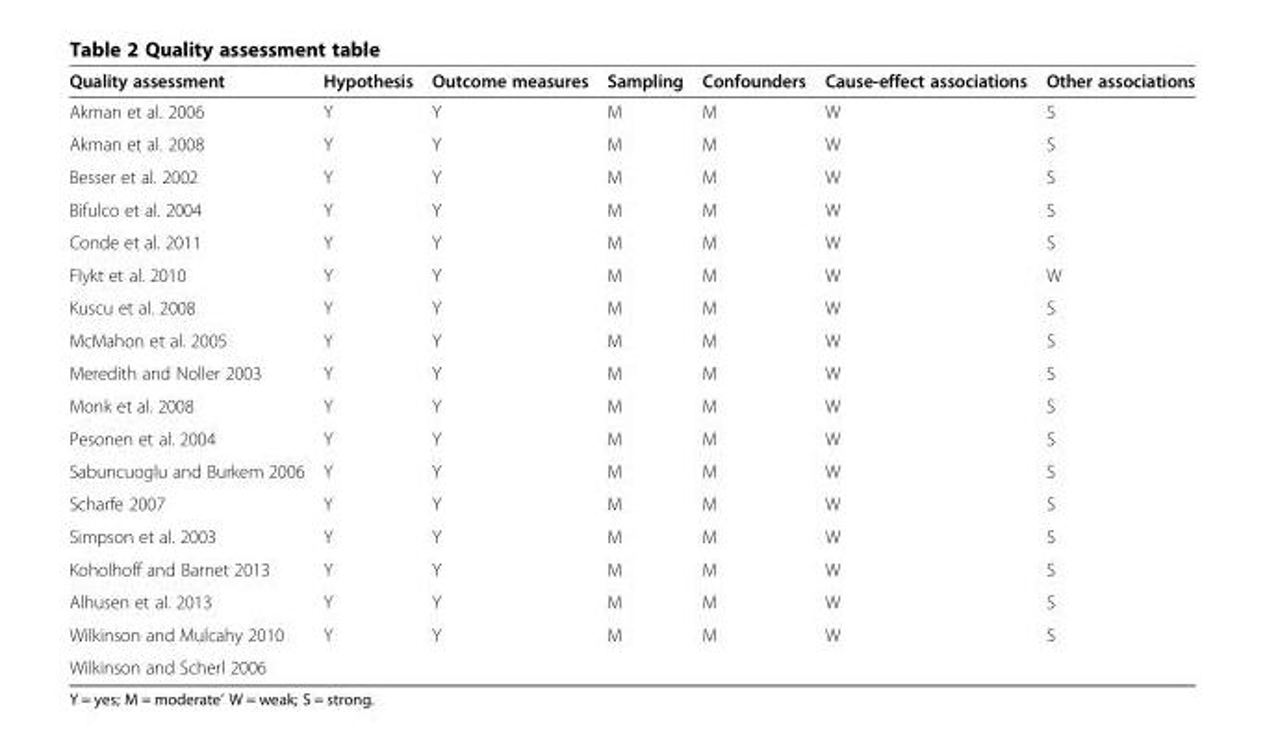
<table><thead><tr><td>Quality assessment</td><td>Hypothesis</td><td>Outcome measures</td><td>Sampling</td><td>Confounders</td><td>Cause-effect associations</td><td>Other associations</td></tr></thead><tbody><tr><td>Akman et al. 2006</td><td>Y</td><td>Y</td><td>M</td><td>M</td><td>W</td><td>S</td></tr><tr><td>Akman et al. 2008</td><td>Y</td><td>Y</td><td>M</td><td>M</td><td>W</td><td>S</td></tr><tr><td>Besser et al. 2002</td><td>Y</td><td>Y</td><td>M</td><td>M</td><td>W</td><td>S</td></tr><tr><td>Bifulco et al. 2004</td><td>Y</td><td>Y</td><td>M</td><td>M</td><td>W</td><td>S</td></tr><tr><td>Conde et al. 2011</td><td>Y</td><td>Y</td><td>M</td><td>M</td><td>W</td><td>S</td></tr><tr><td>Flykt et al. 2010</td><td>Y</td><td>Y</td><td>M</td><td>M</td><td>W</td><td>W</td></tr><tr><td>Kuscu et al. 2008</td><td>Y</td><td>Y</td><td>M</td><td>M</td><td>W</td><td>S</td></tr><tr><td>McMahon et al. 2005</td><td>Y</td><td>Y</td><td>M</td><td>M</td><td>W</td><td>S</td></tr><tr><td>Meredith and Noller 2003</td><td>Y</td><td>Y</td><td>M</td><td>M</td><td>W</td><td>S</td></tr><tr><td>Monk et al. 2008</td><td>Y</td><td>Y</td><td>M</td><td>M</td><td>W</td><td>S</td></tr><tr><td>Pesonen et al. 2004</td><td>Y</td><td>Y</td><td>M</td><td>M</td><td>W</td><td>S</td></tr><tr><td>Sabuncuoglu and Burkem 2006</td><td>Y</td><td>Y</td><td>M</td><td>M</td><td>W</td><td>S</td></tr><tr><td>Scharfe 2007</td><td>Y</td><td>Y</td><td>M</td><td>M</td><td>W</td><td>S</td></tr><tr><td>Simpson et al. 2003</td><td>Y</td><td>Y</td><td>M</td><td>M</td><td>W</td><td>S</td></tr><tr><td>Koholhoff and Barnet 2013</td><td>Y</td><td>Y</td><td>M</td><td>M</td><td>W</td><td>S</td></tr><tr><td>Alhusen et al. 2013</td><td>Y</td><td>Y</td><td>M</td><td>M</td><td>W</td><td>S</td></tr><tr><td>Wilkinson and Mulcahy 2010</td><td>Y</td><td>Y</td><td>M</td><td>M</td><td>W</td><td>S</td></tr><tr><td>Wilkinson and Scherl 2006</td><td></td><td></td><td></td><td></td><td></td><td></td></tr></tbody></table>